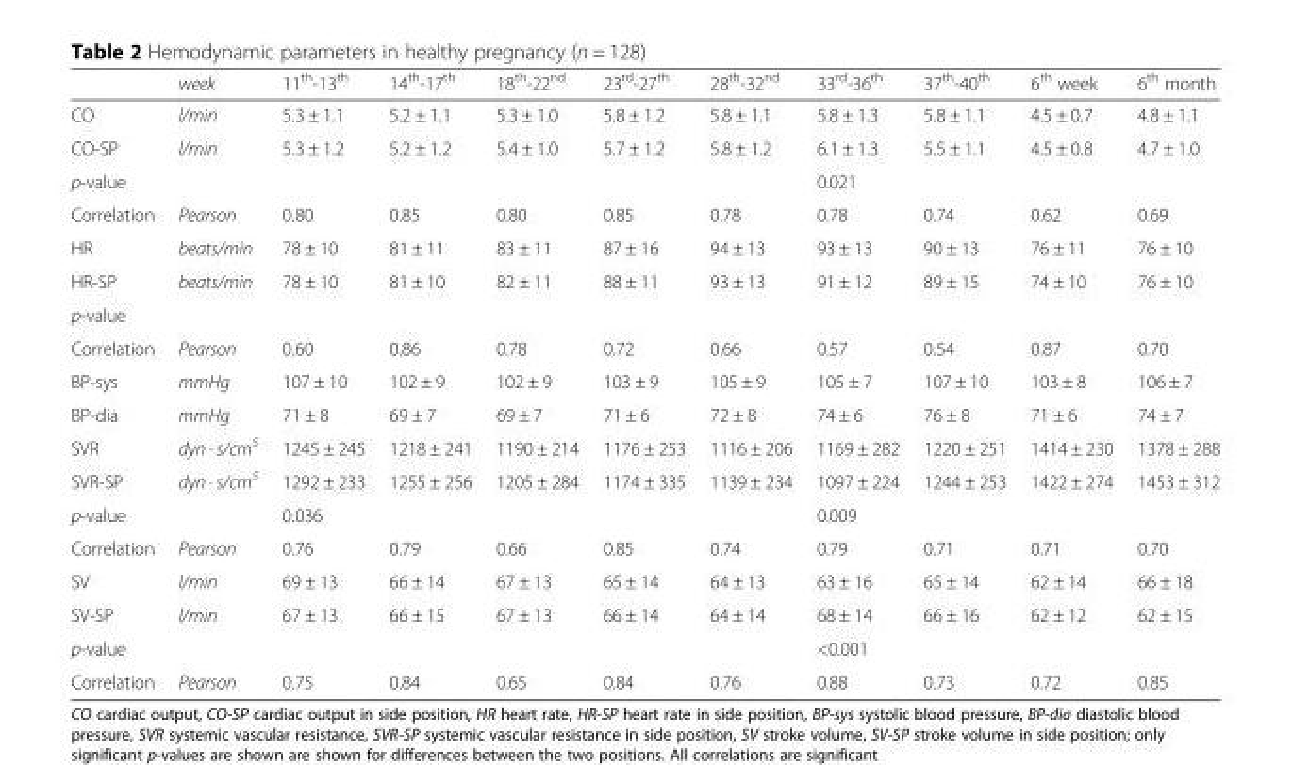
<table><thead><tr><td></td><td>week</td><td>11<sup>th</sup>-13<sup>th</sup></td><td>14<sup>th</sup>-17<sup>th</sup></td><td>18<sup>th</sup>-22<sup>nd</sup></td><td>23<sup>rd</sup>-27<sup>th</sup></td><td>28<sup>th</sup>-32<sup>nd</sup></td><td>33<sup>rd</sup>-36<sup>th</sup></td><td>37<sup>th</sup>-40<sup>th</sup></td><td>6<sup>th</sup> week</td><td>6<sup>th</sup> month</td></tr></thead><tbody><tr><td>CO</td><td>l/min</td><td>5.3 ± 1.1</td><td>5.2 ± 1.1</td><td>5.3 ± 1.0</td><td>5.8 ± 1.2</td><td>5.8 ± 1.1</td><td>5.8 ± 1.3</td><td>5.8 ± 1.1</td><td>4.5 ± 0.7</td><td>4.8 ± 1.1</td></tr><tr><td>CO-SP</td><td>l/min</td><td>5.3 ± 1.2</td><td>5.2 ± 1.2</td><td>5.4 ± 1.0</td><td>5.7 ± 1.2</td><td>5.8 ± 1.2</td><td>6.1 ± 1.3</td><td>5.5 ± 1.1</td><td>4.5 ± 0.8</td><td>4.7 ± 1.0</td></tr><tr><td>p-value</td><td></td><td></td><td></td><td></td><td></td><td></td><td>0.021</td><td></td><td></td><td></td></tr><tr><td>Correlation</td><td>Pearson</td><td>0.80</td><td>0.85</td><td>0.80</td><td>0.85</td><td>0.78</td><td>0.78</td><td>0.74</td><td>0.62</td><td>0.69</td></tr><tr><td>HR</td><td>beats/min</td><td>78 ± 10</td><td>81 ± 11</td><td>83 ± 11</td><td>87 ± 16</td><td>94 ± 13</td><td>93 ± 13</td><td>90 ± 13</td><td>76 ± 11</td><td>76 ± 10</td></tr><tr><td>HR-SP</td><td>beats/min</td><td>78 ± 10</td><td>81 ± 10</td><td>82 ± 11</td><td>88 ± 11</td><td>93 ± 13</td><td>91 ± 12</td><td>89 ± 15</td><td>74 ± 10</td><td>76 ± 10</td></tr><tr><td colspan="11">p-value</td></tr><tr><td>Correlation</td><td>Pearson</td><td>0.60</td><td>0.86</td><td>0.78</td><td>0.72</td><td>0.66</td><td>0.57</td><td>0.54</td><td>0.87</td><td>0.70</td></tr><tr><td>BP-sys</td><td>mmHg</td><td>107 ± 10</td><td>102 ± 9</td><td>102 ± 9</td><td>103 ± 9</td><td>105 ± 9</td><td>105 ± 7</td><td>107 ± 10</td><td>103 ± 8</td><td>106 ± 7</td></tr><tr><td>BP-dia</td><td>mmHg</td><td>71 ± 8</td><td>69 ± 7</td><td>69 ± 7</td><td>71 ± 6</td><td>72 ± 8</td><td>74 ± 6</td><td>76 ± 8</td><td>71 ± 6</td><td>74 ± 7</td></tr><tr><td>SVR</td><td>dyn · s/cm<sup>5</sup></td><td>1245 ± 245</td><td>1218 ± 241</td><td>1190 ± 214</td><td>1176 ± 253</td><td>1116 ± 206</td><td>1169 ± 282</td><td>1220 ± 251</td><td>1414 ± 230</td><td>1378 ± 288</td></tr><tr><td>SVR-SP</td><td>dyn · s/cm<sup>5</sup></td><td>1292 ± 233</td><td>1255 ± 256</td><td>1205 ± 284</td><td>1174 ± 335</td><td>1139 ± 234</td><td>1097 ± 224</td><td>1244 ± 253</td><td>1422 ± 274</td><td>1453 ± 312</td></tr><tr><td>p-value</td><td></td><td>0.036</td><td></td><td></td><td></td><td></td><td>0.009</td><td></td><td></td><td></td></tr><tr><td>Correlation</td><td>Pearson</td><td>0.76</td><td>0.79</td><td>0.66</td><td>0.85</td><td>0.74</td><td>0.79</td><td>0.71</td><td>0.71</td><td>0.70</td></tr><tr><td>SV</td><td>l/min</td><td>69 ± 13</td><td>66 ± 14</td><td>67 ± 13</td><td>65 ± 14</td><td>64 ± 13</td><td>63 ± 16</td><td>65 ± 14</td><td>62 ± 14</td><td>66 ± 18</td></tr><tr><td>SV-SP</td><td>l/min</td><td>67 ± 13</td><td>66 ± 15</td><td>67 ± 13</td><td>66 ± 14</td><td>64 ± 14</td><td>68 ± 14</td><td>66 ± 16</td><td>62 ± 12</td><td>62 ± 15</td></tr><tr><td>p-value</td><td></td><td></td><td></td><td></td><td></td><td></td><td>&lt;0.001</td><td></td><td></td><td></td></tr><tr><td>Correlation</td><td>Pearson</td><td>0.75</td><td>0.84</td><td>0.65</td><td>0.84</td><td>0.76</td><td>0.88</td><td>0.73</td><td>0.72</td><td>0.85</td></tr></tbody></table>